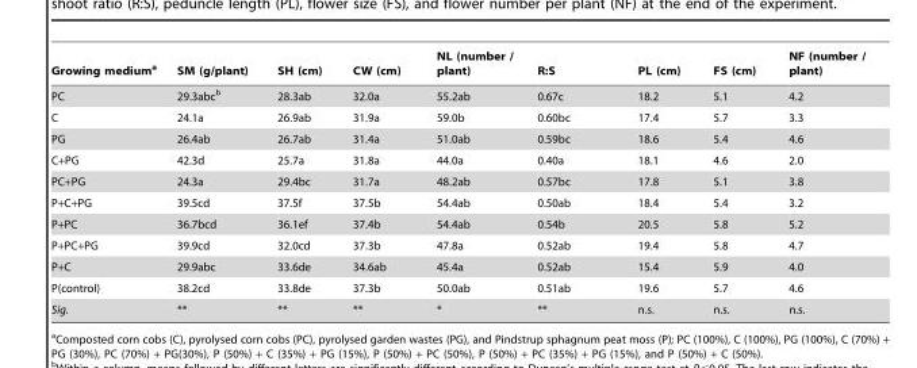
<table><thead><tr><td>Growing medium<sup>a</sup></td><td>SM (g/plant)</td><td>SH (cm)</td><td>CW (cm)</td><td>NL (number / plant)</td><td>R:S</td><td>PL (cm)</td><td>FS (cm)</td><td>NF (number / plant)</td></tr></thead><tbody><tr><td>PC</td><td>29.3abc<sup>b</sup></td><td>28.3ab</td><td>32.0a</td><td>55.2ab</td><td>0.67c</td><td>18.2</td><td>5.1</td><td>4.2</td></tr><tr><td>C</td><td>24.1a</td><td>26.9ab</td><td>31.9a</td><td>59.0b</td><td>0.60bc</td><td>17.4</td><td>5.7</td><td>3.3</td></tr><tr><td>PG</td><td>26.4ab</td><td>26.7ab</td><td>31.4a</td><td>51.0ab</td><td>0.59bc</td><td>18.6</td><td>5.4</td><td>4.6</td></tr><tr><td>C+PG</td><td>42.3d</td><td>25.7a</td><td>31.8a</td><td>44.0a</td><td>0.40a</td><td>18.1</td><td>4.6</td><td>2.0</td></tr><tr><td>PC+PG</td><td>24.3a</td><td>29.4bc</td><td>31.7a</td><td>48.2ab</td><td>0.57bc</td><td>17.8</td><td>5.1</td><td>3.8</td></tr><tr><td>P+C+PG</td><td>39.5cd</td><td>37.5f</td><td>37.5b</td><td>54.4ab</td><td>0.50ab</td><td>18.4</td><td>5.4</td><td>3.2</td></tr><tr><td>P+PC</td><td>36.7bcd</td><td>36.1ef</td><td>37.4b</td><td>54.4ab</td><td>0.54b</td><td>20.5</td><td>5.8</td><td>5.2</td></tr><tr><td>P+PC+PG</td><td>39.9cd</td><td>32.0cd</td><td>37.3b</td><td>47.8a</td><td>0.52ab</td><td>19.4</td><td>5.8</td><td>4.7</td></tr><tr><td>P+C</td><td>29.9abc</td><td>33.6de</td><td>34.6ab</td><td>45.4a</td><td>0.52ab</td><td>15.4</td><td>5.9</td><td>4.0</td></tr><tr><td>P(control)</td><td>38.2cd</td><td>33.8de</td><td>37.3b</td><td>50.0ab</td><td>0.51ab</td><td>19.6</td><td>5.7</td><td>4.6</td></tr><tr><td>Sig.</td><td>**</td><td>**</td><td>**</td><td>*</td><td>**</td><td>n.s.</td><td>n.s.</td><td>n.s.</td></tr></tbody></table>